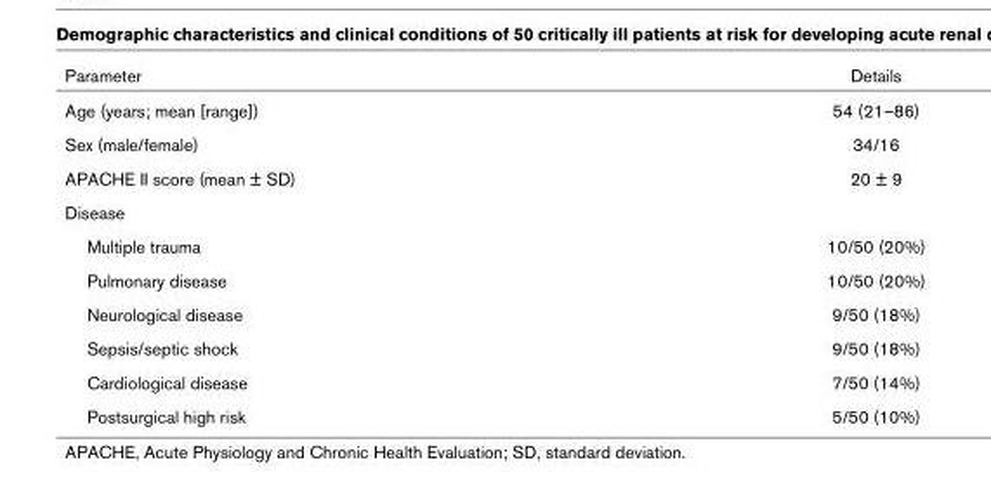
<table><thead><tr><td>Parameter</td><td>Details</td></tr></thead><tbody><tr><td>Age (years; mean [range])</td><td>54 (21–86)</td></tr><tr><td>Sex (male/female)</td><td>34/16</td></tr><tr><td>APACHE II score (mean ± SD)</td><td>20 ± 9</td></tr><tr><td colspan="2">Disease</td></tr><tr><td>Multiple trauma</td><td>10/50 (20%)</td></tr><tr><td>Pulmonary disease</td><td>10/50 (20%)</td></tr><tr><td>Neurological disease</td><td>9/50 (18%)</td></tr><tr><td>Sepsis/septic shock</td><td>9/50 (18%)</td></tr><tr><td>Cardiological disease</td><td>7/50 (14%)</td></tr><tr><td>Postsurgical high risk</td><td>5/50 (10%)</td></tr></tbody></table>